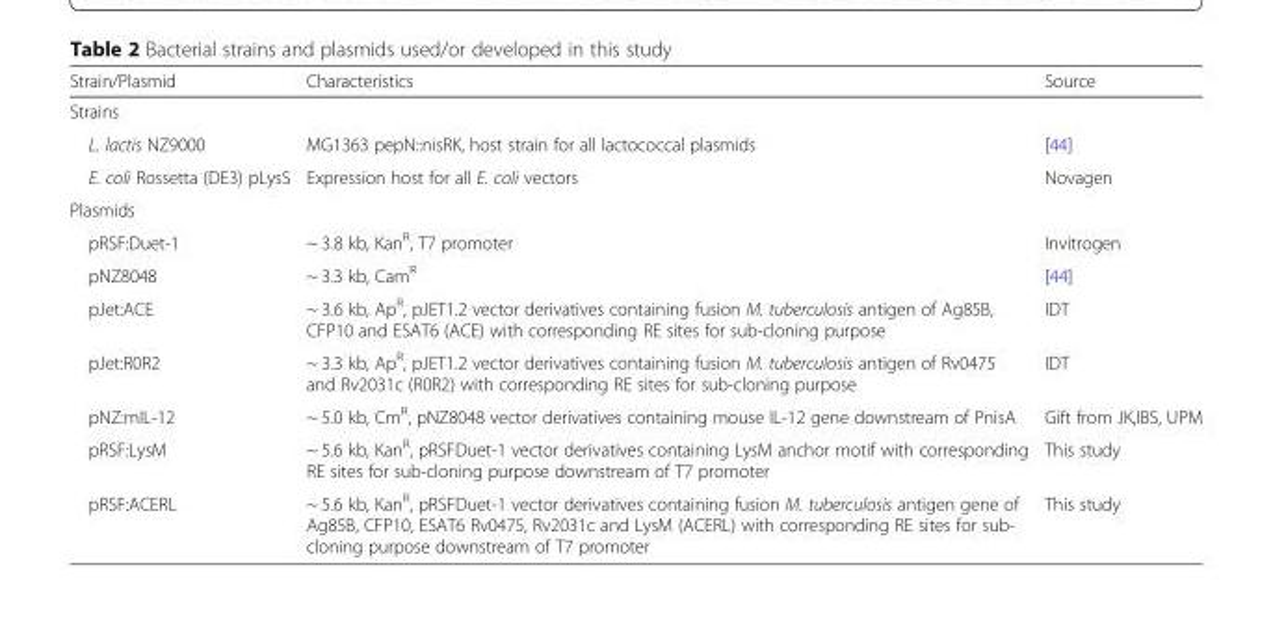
<table><thead><tr><td>Strain/Plasmid</td><td>Characteristics</td><td>Source</td></tr></thead><tbody><tr><td colspan="3">Strains</td></tr><tr><td>L. lactis NZ9000</td><td>MG1363 pepN::nisRK, host strain for all lactococcal plasmids</td><td>[44]</td></tr><tr><td>E. coli Rossetta (DE3) pLysS</td><td>Expression host for all E. coli vectors</td><td>Novagen</td></tr><tr><td colspan="3">Plasmids</td></tr><tr><td>pRSF:Duet-1</td><td>~ 3.8 kb, Kan<sup>R</sup>, T7 promoter</td><td>Invitrogen</td></tr><tr><td>pNZ8048</td><td>~ 3.3 kb, Cam<sup>R</sup></td><td>[44]</td></tr><tr><td>pJet:ACE</td><td>~ 3.6 kb, Ap<sup>R</sup>, pJET1.2 vector derivatives containing fusion M. tuberculosis antigen of Ag85B, CFP10 and ESAT6 (ACE) with corresponding RE sites for sub-cloning purpose</td><td>IDT</td></tr><tr><td>pJet:R0R2</td><td>~ 3.3 kb, Ap<sup>R</sup>, pJET1.2 vector derivatives containing fusion M. tuberculosis antigen of Rv0475 and Rv2031c (R0R2) with corresponding RE sites for sub-cloning purpose</td><td>IDT</td></tr><tr><td>pNZ:mIL-12</td><td>~ 5.0 kb, Cm<sup>R</sup>, pNZ8048 vector derivatives containing mouse IL-12 gene downstream of PnisA</td><td>Gift from JK,IBS, UPM</td></tr><tr><td>pRSF:LysM</td><td>~ 5.6 kb, Kan<sup>R</sup>, pRSFDuet-1 vector derivatives containing LysM anchor motif with corresponding RE sites for sub-cloning purpose downstream of T7 promoter</td><td>This study</td></tr><tr><td>pRSF:ACERL</td><td>~ 5.6 kb, Kan<sup>R</sup>, pRSFDuet-1 vector derivatives containing fusion M. tuberculosis antigen gene of Ag85B, CFP10, ESAT6 Rv0475, Rv2031c and LysM (ACERL) with corresponding RE sites for sub- cloning purpose downstream of T7 promoter</td><td>This study</td></tr></tbody></table>